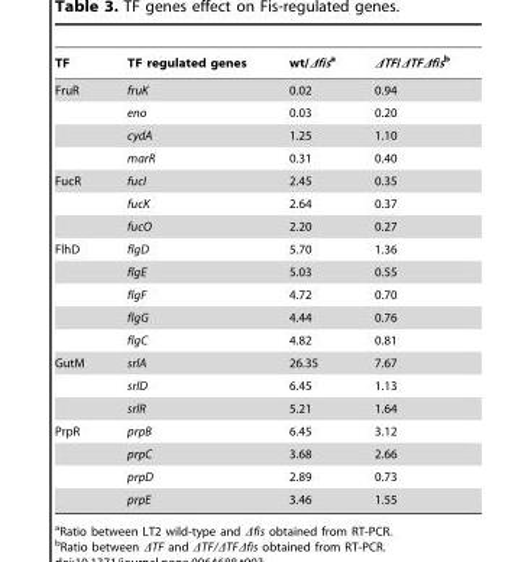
<table><thead><tr><td>TF</td><td>TF regulated genes</td><td>wt/Δfisa</td><td>ΔTF/ΔTFΔfisb</td></tr></thead><tbody><tr><td rowspan="4">FruR</td><td>fruK</td><td>0.02</td><td>0.94</td></tr><tr><td>eno</td><td>0.03</td><td>0.20</td></tr><tr><td>cydA</td><td>1.25</td><td>1.10</td></tr><tr><td>marR</td><td>0.31</td><td>0.40</td></tr><tr><td rowspan="3">FucR</td><td>fucI</td><td>2.45</td><td>0.35</td></tr><tr><td>fucK</td><td>2.64</td><td>0.37</td></tr><tr><td>fucO</td><td>2.20</td><td>0.27</td></tr><tr><td rowspan="5">FlhD</td><td>flgD</td><td>5.70</td><td>1.36</td></tr><tr><td>flgE</td><td>5.03</td><td>0.55</td></tr><tr><td>flgF</td><td>4.72</td><td>0.70</td></tr><tr><td>flgG</td><td>4.44</td><td>0.76</td></tr><tr><td>flgC</td><td>4.82</td><td>0.81</td></tr><tr><td rowspan="3">GutM</td><td>srlA</td><td>26.35</td><td>7.67</td></tr><tr><td>srlD</td><td>6.45</td><td>1.13</td></tr><tr><td>srlR</td><td>5.21</td><td>1.64</td></tr><tr><td rowspan="4">PrpR</td><td>prpB</td><td>6.45</td><td>3.12</td></tr><tr><td>prpC</td><td>3.68</td><td>2.66</td></tr><tr><td>prpD</td><td>2.89</td><td>0.73</td></tr><tr><td>prpE</td><td>3.46</td><td>1.55</td></tr></tbody></table>